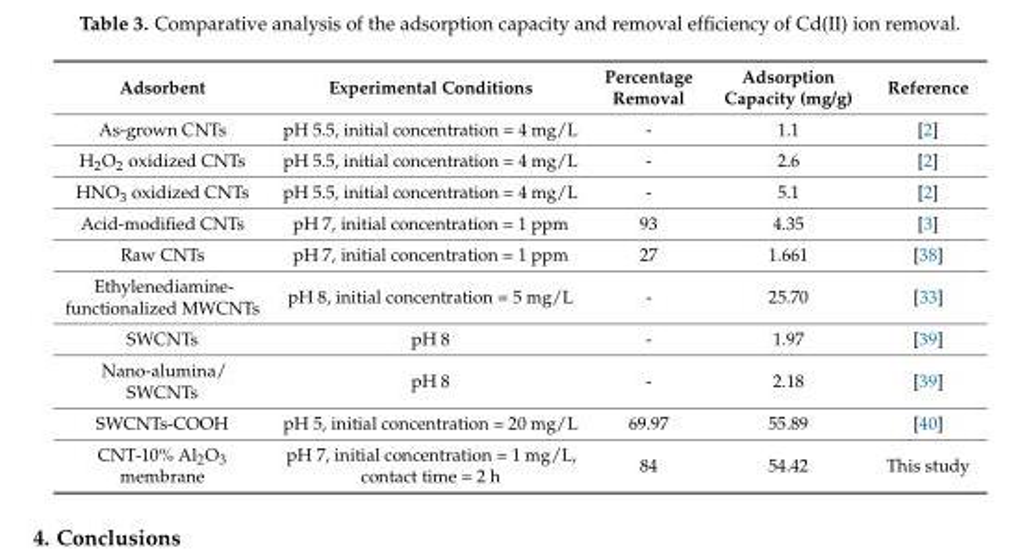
<table><thead><tr><td>Adsorbent</td><td>Experimental Conditions</td><td>Percentage Removal</td><td>Adsorption Capacity (mg/g)</td><td>Reference</td></tr></thead><tbody><tr><td>As-grown CNTs</td><td>pH 5.5, initial concentration = 4 mg/L</td><td>-</td><td>1.1</td><td>[2]</td></tr><tr><td>H<sub>2</sub>O<sub>2</sub> oxidized CNTs</td><td>pH 5.5, initial concentration = 4 mg/L</td><td>-</td><td>2.6</td><td>[2]</td></tr><tr><td>HNO<sub>3</sub> oxidized CNTs</td><td>pH 5.5, initial concentration = 4 mg/L</td><td>-</td><td>5.1</td><td>[2]</td></tr><tr><td>Acid-modified CNTs</td><td>pH 7, initial concentration = 1 ppm</td><td>93</td><td>4.35</td><td>[3]</td></tr><tr><td>Raw CNTs</td><td>pH 7, initial concentration = 1 ppm</td><td>27</td><td>1.661</td><td>[38]</td></tr><tr><td>Ethylenediamine- functionalized MWCNTs</td><td>pH 8, initial concentration = 5 mg/L</td><td>-</td><td>25.70</td><td>[33]</td></tr><tr><td>SWCNTs</td><td>pH 8</td><td>-</td><td>1.97</td><td>[39]</td></tr><tr><td>Nano-alumina/ SWCNTs</td><td>pH 8</td><td>-</td><td>2.18</td><td>[39]</td></tr><tr><td>SWCNTs-COOH</td><td>pH 5, initial concentration = 20 mg/L</td><td>69.97</td><td>55.89</td><td>[40]</td></tr><tr><td>CNT-10% Al<sub>2</sub>O<sub>3</sub> membrane</td><td>pH 7, initial concentration = 1 mg/L, contact time = 2 h</td><td>84</td><td>54.42</td><td>This study</td></tr></tbody></table>